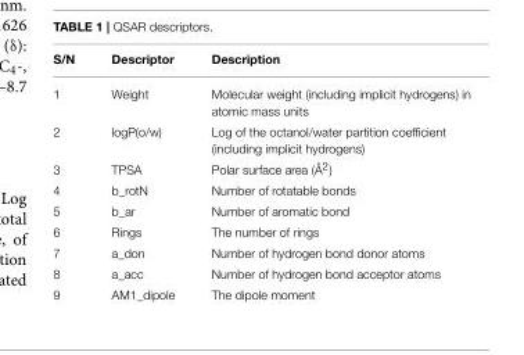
<table><thead><tr><td>S/N</td><td>Descriptor</td><td>Description</td></tr></thead><tbody><tr><td>1</td><td>Weight</td><td>Molecular weight (including implicit hydrogens) in atomic mass units</td></tr><tr><td>2</td><td>logP(o/w)</td><td>Log of the octanol/water partition coefficient (including implicit hydrogens)</td></tr><tr><td>3</td><td>TPSA</td><td>Polar surface area (Å<sup>2</sup>)</td></tr><tr><td>4</td><td>b_rotN</td><td>Number of rotatable bonds</td></tr><tr><td>5</td><td>b_ar</td><td>Number of aromatic bond</td></tr><tr><td>6</td><td>Rings</td><td>The number of rings</td></tr><tr><td>7</td><td>a_don</td><td>Number of hydrogen bond donor atoms</td></tr><tr><td>8</td><td>a_acc</td><td>Number of hydrogen bond acceptor atoms</td></tr><tr><td>9</td><td>AM1_dipole</td><td>The dipole moment</td></tr></tbody></table>